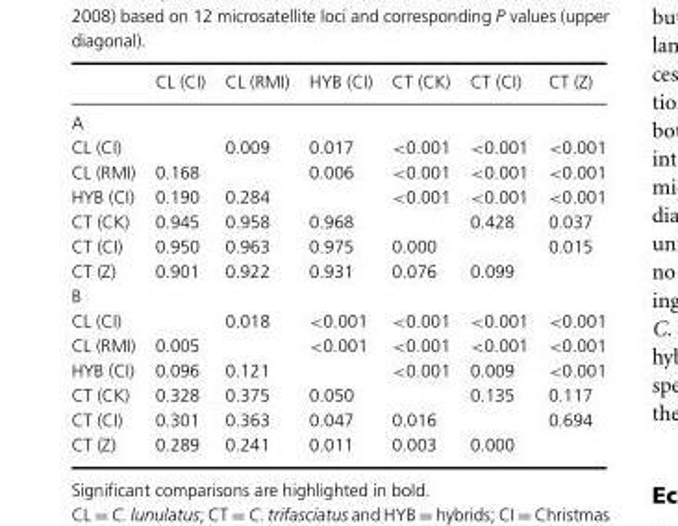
<table><thead><tr><td></td><td>CL (CI)</td><td>CL (RMI)</td><td>HYB (CI)</td><td>CT (CK)</td><td>CT (CI)</td><td>CT (Z)</td></tr></thead><tbody><tr><td colspan="7">A</td></tr><tr><td>CL (CI)</td><td></td><td>0.009</td><td>0.017</td><td>&lt;0.001</td><td>&lt;0.001</td><td>&lt;0.001</td></tr><tr><td>CL (RMI)</td><td>0.168</td><td></td><td>0.006</td><td>&lt;0.001</td><td>&lt;0.001</td><td>&lt;0.001</td></tr><tr><td>HYB (CI)</td><td>0.190</td><td>0.284</td><td></td><td>&lt;0.001</td><td>&lt;0.001</td><td>&lt;0.001</td></tr><tr><td>CT (CK)</td><td>0.945</td><td>0.958</td><td>0.968</td><td></td><td>0.428</td><td>0.037</td></tr><tr><td>CT (CI)</td><td>0.950</td><td>0.963</td><td>0.975</td><td>0.000</td><td></td><td>0.015</td></tr><tr><td>CT (Z)</td><td>0.901</td><td>0.922</td><td>0.931</td><td>0.076</td><td>0.099</td><td></td></tr><tr><td colspan="7">B</td></tr><tr><td>CL (CI)</td><td></td><td>0.018</td><td>&lt;0.001</td><td>&lt;0.001</td><td>&lt;0.001</td><td>&lt;0.001</td></tr><tr><td>CL (RMI)</td><td>0.005</td><td></td><td>&lt;0.001</td><td>&lt;0.001</td><td>&lt;0.001</td><td>&lt;0.001</td></tr><tr><td>HYB (CI)</td><td>0.096</td><td>0.121</td><td></td><td>&lt;0.001</td><td>0.009</td><td>&lt;0.001</td></tr><tr><td>CT (CK)</td><td>0.328</td><td>0.375</td><td>0.050</td><td></td><td>0.135</td><td>0.117</td></tr><tr><td>CT (CI)</td><td>0.301</td><td>0.363</td><td>0.047</td><td>0.016</td><td></td><td>0.694</td></tr><tr><td>CT (Z)</td><td>0.289</td><td>0.241</td><td>0.011</td><td>0.003</td><td>0.000</td><td></td></tr></tbody></table>